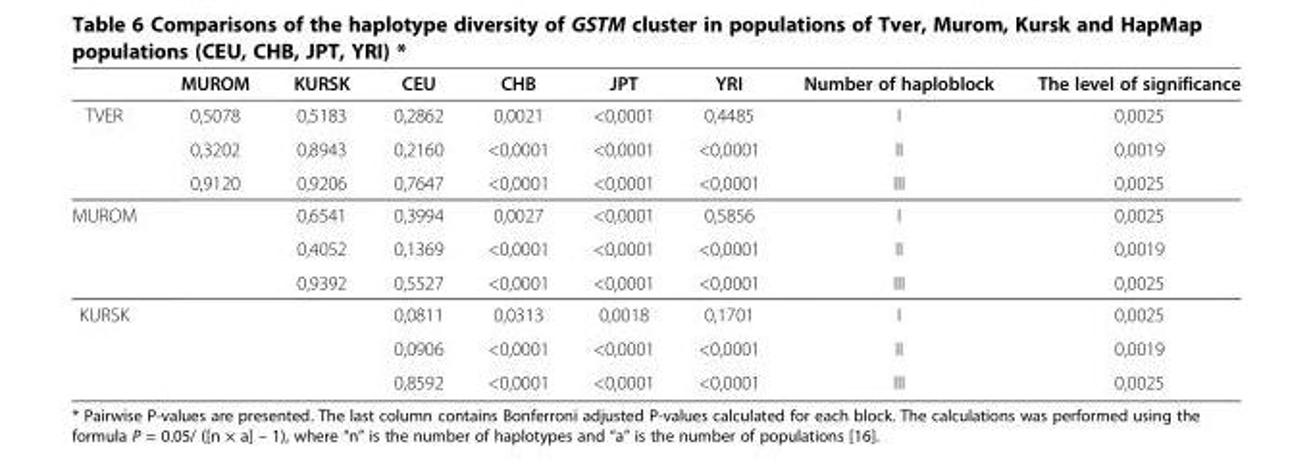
<table><thead><tr><td></td><td>MUROM</td><td>KURSK</td><td>СЕU</td><td>CHB</td><td>JPT</td><td>YRI</td><td>Number of haploblock</td><td>The level of significance</td></tr></thead><tbody><tr><td rowspan="3">TVER</td><td>0,5078</td><td>0,5183</td><td>0,2862</td><td>0,0021</td><td>&lt;0,0001</td><td>0,4485</td><td>I</td><td>0,0025</td></tr><tr><td>0,3202</td><td>0,8943</td><td>0,2160</td><td>&lt;0,0001</td><td>&lt;0,0001</td><td>&lt;0,0001</td><td>II</td><td>0,0019</td></tr><tr><td>0,9120</td><td>0,9206</td><td>0,7647</td><td>&lt;0,0001</td><td>&lt;0,0001</td><td>&lt;0,0001</td><td>III</td><td>0,0025</td></tr><tr><td rowspan="3">MUROM</td><td></td><td>0,6541</td><td>0,3994</td><td>0,0027</td><td>&lt;0,0001</td><td>0,5856</td><td>I</td><td>0,0025</td></tr><tr><td></td><td>0,4052</td><td>0,1369</td><td>&lt;0,0001</td><td>&lt;0,0001</td><td>&lt;0,0001</td><td>II</td><td>0,0019</td></tr><tr><td></td><td>0,9392</td><td>0,5527</td><td>&lt;0,0001</td><td>&lt;0,0001</td><td>&lt;0,0001</td><td>III</td><td>0,0025</td></tr><tr><td rowspan="3">KURSK</td><td></td><td></td><td>0,0811</td><td>0,0313</td><td>0,0018</td><td>0,1701</td><td>I</td><td>0,0025</td></tr><tr><td></td><td></td><td>0,0906</td><td>&lt;0,0001</td><td>&lt;0,0001</td><td>&lt;0,0001</td><td>II</td><td>0,0019</td></tr><tr><td></td><td></td><td>0,8592</td><td>&lt;0,0001</td><td>&lt;0,0001</td><td>&lt;0,0001</td><td>III</td><td>0,0025</td></tr></tbody></table>